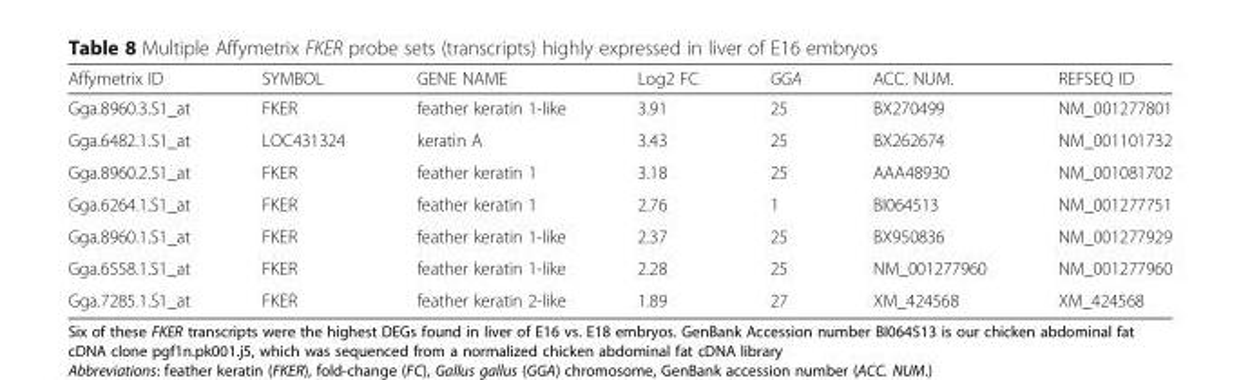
<table><thead><tr><td>Affymetrix ID</td><td>SYMBOL</td><td>GENE NAME</td><td>Log2 FC</td><td>GGA</td><td>ACC. NUM.</td><td>REFSEQ ID</td></tr></thead><tbody><tr><td>Gga.8960.3.S1_at</td><td>FKER</td><td>feather keratin 1-like</td><td>3.91</td><td>25</td><td>BX270499</td><td>NM_001277801</td></tr><tr><td>Gga.6482.1.S1_at</td><td>LOC431324</td><td>keratin A</td><td>3.43</td><td>25</td><td>BX262674</td><td>NM_001101732</td></tr><tr><td>Gga.8960.2.S1_at</td><td>FKER</td><td>feather keratin 1</td><td>3.18</td><td>25</td><td>AAA48930</td><td>NM_001081702</td></tr><tr><td>Gga.6264.1.S1_at</td><td>FKER</td><td>feather keratin 1</td><td>2.76</td><td>1</td><td>BI064513</td><td>NM_001277751</td></tr><tr><td>Gga.8960.1.S1_at</td><td>FKER</td><td>feather keratin 1-like</td><td>2.37</td><td>25</td><td>BX950836</td><td>NM_001277929</td></tr><tr><td>Gga.6558.1.S1_at</td><td>FKER</td><td>feather keratin 1-like</td><td>2.28</td><td>25</td><td>NM_001277960</td><td>NM_001277960</td></tr><tr><td>Gga.7285.1.S1_at</td><td>FKER</td><td>feather keratin 2-like</td><td>1.89</td><td>27</td><td>XM_424568</td><td>XM_424568</td></tr></tbody></table>